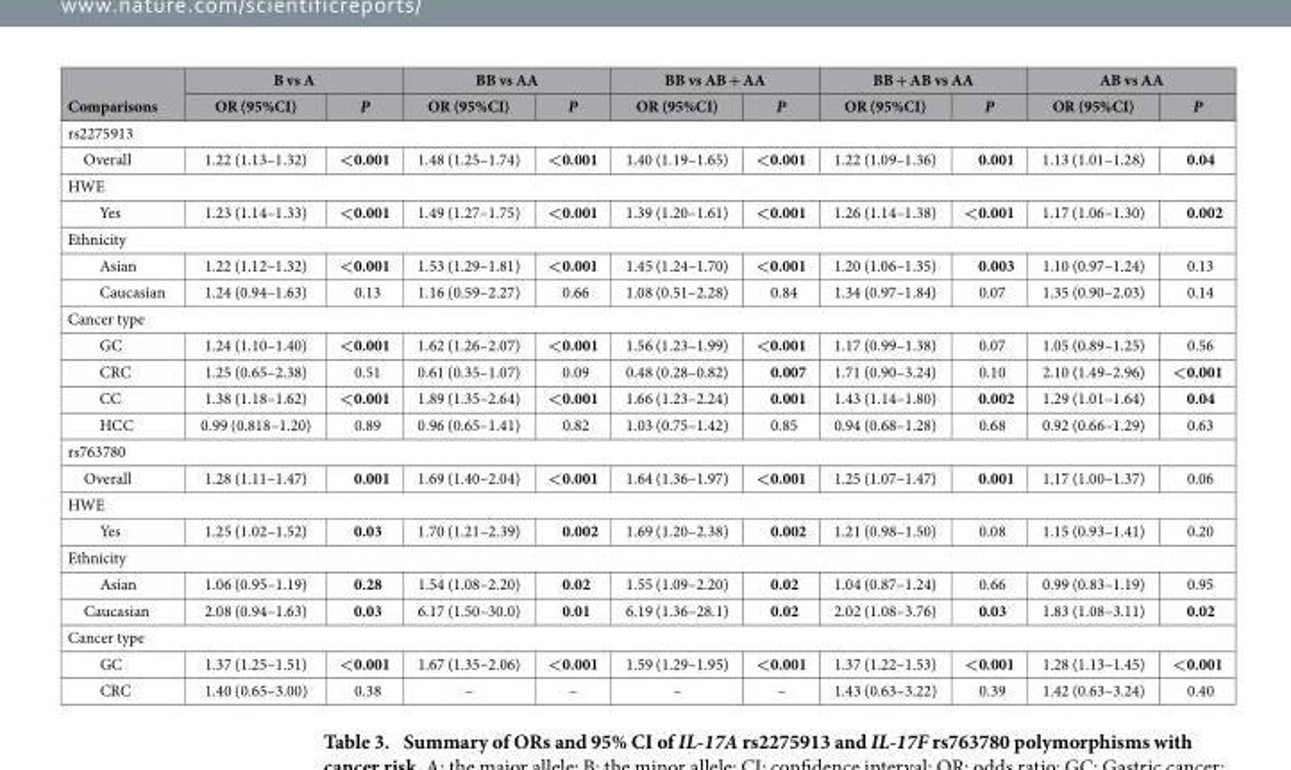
<table><thead><tr><td rowspan="2">Comparisons</td><td colspan="2">B vs A</td><td colspan="2">BB vs AA</td><td colspan="2">BB vs AB + AA</td><td colspan="2">BB + AB vs AA</td><td colspan="2">AB vs AA</td></tr><tr><td>OR (95%CI)</td><td>P</td><td>OR (95%CI)</td><td>P</td><td>OR (95%CI)</td><td>P</td><td>OR (95%CI)</td><td>P</td><td>OR (95%CI)</td><td>P</td></tr></thead><tbody><tr><td colspan="11">rs2275913</td></tr><tr><td>Overall</td><td>1.22 (1.13–1.32)</td><td>&lt;0.001</td><td>1.48 (1.25–1.74)</td><td>&lt;0.001</td><td>1.40 (1.19–1.65)</td><td>&lt;0.001</td><td>1.22 (1.09–1.36)</td><td>0.001</td><td>1.13 (1.01–1.28)</td><td>0.04</td></tr><tr><td colspan="11">HWE</td></tr><tr><td>Yes</td><td>1.23 (1.14–1.33)</td><td>&lt;0.001</td><td>1.49 (1.27–1.75)</td><td>&lt;0.001</td><td>1.39 (1.20–1.61)</td><td>&lt;0.001</td><td>1.26 (1.14–1.38)</td><td>&lt;0.001</td><td>1.17 (1.06–1.30)</td><td>0.002</td></tr><tr><td colspan="11">Ethnicity</td></tr><tr><td>Asian</td><td>1.22 (1.12–1.32)</td><td>&lt;0.001</td><td>1.53 (1.29–1.81)</td><td>&lt;0.001</td><td>1.45 (1.24–1.70)</td><td>&lt;0.001</td><td>1.20 (1.06–1.35)</td><td>0.003</td><td>1.10 (0.97–1.24)</td><td>0.13</td></tr><tr><td>Caucasian</td><td>1.24 (0.94–1.63)</td><td>0.13</td><td>1.16 (0.59–2.27)</td><td>0.66</td><td>1.08 (0.51–2.28)</td><td>0.84</td><td>1.34 (0.97–1.84)</td><td>0.07</td><td>1.35 (0.90–2.03)</td><td>0.14</td></tr><tr><td colspan="11">Cancer type</td></tr><tr><td>GC</td><td>1.24 (1.10–1.40)</td><td>&lt;0.001</td><td>1.62 (1.26–2.07)</td><td>&lt;0.001</td><td>1.56 (1.23–1.99)</td><td>&lt;0.001</td><td>1.17 (0.99–1.38)</td><td>0.07</td><td>1.05 (0.89–1.25)</td><td>0.56</td></tr><tr><td>CRC</td><td>1.25 (0.65–2.38)</td><td>0.51</td><td>0.61 (0.35–1.07)</td><td>0.09</td><td>0.48 (0.28–0.82)</td><td>0.007</td><td>1.71 (0.90–3.24)</td><td>0.10</td><td>2.10 (1.49–2.96)</td><td>&lt;0.001</td></tr><tr><td>CC</td><td>1.38 (1.18–1.62)</td><td>&lt;0.001</td><td>1.89 (1.35–2.64)</td><td>&lt;0.001</td><td>1.66 (1.23–2.24)</td><td>0.001</td><td>1.43 (1.14–1.80)</td><td>0.002</td><td>1.29 (1.01–1.64)</td><td>0.04</td></tr><tr><td>HCC</td><td>0.99 (0.818–1.20)</td><td>0.89</td><td>0.96 (0.65–1.41)</td><td>0.82</td><td>1.03 (0.75–1.42)</td><td>0.85</td><td>0.94 (0.68–1.28)</td><td>0.68</td><td>0.92 (0.66–1.29)</td><td>0.63</td></tr><tr><td colspan="11">rs763780</td></tr><tr><td>Overall</td><td>1.28 (1.11–1.47)</td><td>0.001</td><td>1.69 (1.40–2.04)</td><td>&lt;0.001</td><td>1.64 (1.36–1.97)</td><td>&lt;0.001</td><td>1.25 (1.07–1.47)</td><td>0.001</td><td>1.17 (1.00–1.37)</td><td>0.06</td></tr><tr><td colspan="11">HWE</td></tr><tr><td>Yes</td><td>1.25 (1.02–1.52)</td><td>0.03</td><td>1.70 (1.21–2.39)</td><td>0.002</td><td>1.69 (1.20–2.38)</td><td>0.002</td><td>1.21 (0.98–1.50)</td><td>0.08</td><td>1.15 (0.93–1.41)</td><td>0.20</td></tr><tr><td colspan="11">Ethnicity</td></tr><tr><td>Asian</td><td>1.06 (0.95–1.19)</td><td>0.28</td><td>1.54 (1.08–2.20)</td><td>0.02</td><td>1.55 (1.09–2.20)</td><td>0.02</td><td>1.04 (0.87–1.24)</td><td>0.66</td><td>0.99 (0.83–1.19)</td><td>0.95</td></tr><tr><td>Caucasian</td><td>2.08 (0.94–1.63)</td><td>0.03</td><td>6.17 (1.50–30.0)</td><td>0.01</td><td>6.19 (1.36–28.1)</td><td>0.02</td><td>2.02 (1.08–3.76)</td><td>0.03</td><td>1.83 (1.08–3.11)</td><td>0.02</td></tr><tr><td colspan="11">Cancer type</td></tr><tr><td>GC</td><td>1.37 (1.25–1.51)</td><td>&lt;0.001</td><td>1.67 (1.35–2.06)</td><td>&lt;0.001</td><td>1.59 (1.29–1.95)</td><td>&lt;0.001</td><td>1.37 (1.22–1.53)</td><td>&lt;0.001</td><td>1.28 (1.13–1.45)</td><td>&lt;0.001</td></tr><tr><td>CRC</td><td>1.40 (0.65–3.00)</td><td>0.38</td><td>–</td><td>–</td><td>–</td><td>–</td><td>1.43 (0.63–3.22)</td><td>0.39</td><td>1.42 (0.63–3.24)</td><td>0.40</td></tr></tbody></table>